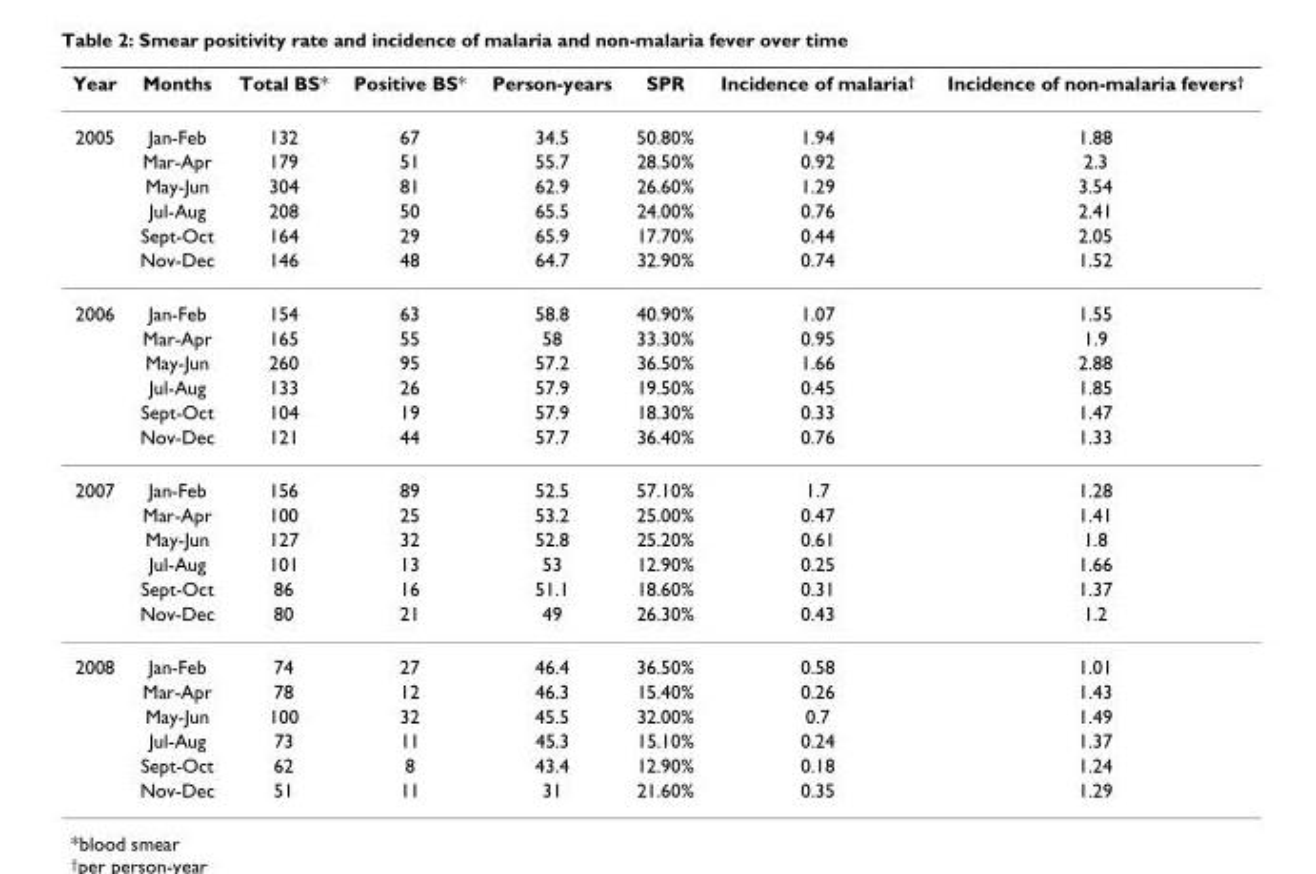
<table><thead><tr><td>Year</td><td>Months</td><td>Total BS*</td><td>Positive BS*</td><td>Person-years</td><td>SPR</td><td>Incidence of malaria<sup>†</sup></td><td>Incidence of non-malaria fevers<sup>†</sup></td></tr></thead><tbody><tr><td rowspan="6">2005</td><td>Jan-Feb</td><td>132</td><td>67</td><td>34.5</td><td>50.80%</td><td>1.94</td><td>1.88</td></tr><tr><td>Mar-Apr</td><td>179</td><td>51</td><td>55.7</td><td>28.50%</td><td>0.92</td><td>2.3</td></tr><tr><td>May-Jun</td><td>304</td><td>81</td><td>62.9</td><td>26.60%</td><td>1.29</td><td>3.54</td></tr><tr><td>Jul-Aug</td><td>208</td><td>50</td><td>65.5</td><td>24.00%</td><td>0.76</td><td>2.41</td></tr><tr><td>Sept-Oct</td><td>164</td><td>29</td><td>65.9</td><td>17.70%</td><td>0.44</td><td>2.05</td></tr><tr><td>Nov-Dec</td><td>146</td><td>48</td><td>64.7</td><td>32.90%</td><td>0.74</td><td>1.52</td></tr><tr><td rowspan="6">2006</td><td>Jan-Feb</td><td>154</td><td>63</td><td>58.8</td><td>40.90%</td><td>1.07</td><td>1.55</td></tr><tr><td>Mar-Apr</td><td>165</td><td>55</td><td>58</td><td>33.30%</td><td>0.95</td><td>1.9</td></tr><tr><td>May-Jun</td><td>260</td><td>95</td><td>57.2</td><td>36.50%</td><td>1.66</td><td>2.88</td></tr><tr><td>Jul-Aug</td><td>133</td><td>26</td><td>57.9</td><td>19.50%</td><td>0.45</td><td>1.85</td></tr><tr><td>Sept-Oct</td><td>104</td><td>19</td><td>57.9</td><td>18.30%</td><td>0.33</td><td>1.47</td></tr><tr><td>Nov-Dec</td><td>121</td><td>44</td><td>57.7</td><td>36.40%</td><td>0.76</td><td>1.33</td></tr><tr><td rowspan="6">2007</td><td>Jan-Feb</td><td>156</td><td>89</td><td>52.5</td><td>57.10%</td><td>1.7</td><td>1.28</td></tr><tr><td>Mar-Apr</td><td>100</td><td>25</td><td>53.2</td><td>25.00%</td><td>0.47</td><td>1.41</td></tr><tr><td>May-Jun</td><td>127</td><td>32</td><td>52.8</td><td>25.20%</td><td>0.61</td><td>1.8</td></tr><tr><td>Jul-Aug</td><td>101</td><td>13</td><td>53</td><td>12.90%</td><td>0.25</td><td>1.66</td></tr><tr><td>Sept-Oct</td><td>86</td><td>16</td><td>51.1</td><td>18.60%</td><td>0.31</td><td>1.37</td></tr><tr><td>Nov-Dec</td><td>80</td><td>21</td><td>49</td><td>26.30%</td><td>0.43</td><td>1.2</td></tr><tr><td rowspan="6">2008</td><td>Jan-Feb</td><td>74</td><td>27</td><td>46.4</td><td>36.50%</td><td>0.58</td><td>1.01</td></tr><tr><td>Mar-Apr</td><td>78</td><td>12</td><td>46.3</td><td>15.40%</td><td>0.26</td><td>1.43</td></tr><tr><td>May-Jun</td><td>100</td><td>32</td><td>45.5</td><td>32.00%</td><td>0.7</td><td>1.49</td></tr><tr><td>Jul-Aug</td><td>73</td><td>11</td><td>45.3</td><td>15.10%</td><td>0.24</td><td>1.37</td></tr><tr><td>Sept-Oct</td><td>62</td><td>8</td><td>43.4</td><td>12.90%</td><td>0.18</td><td>1.24</td></tr><tr><td>Nov-Dec</td><td>51</td><td>11</td><td>31</td><td>21.60%</td><td>0.35</td><td>1.29</td></tr></tbody></table>